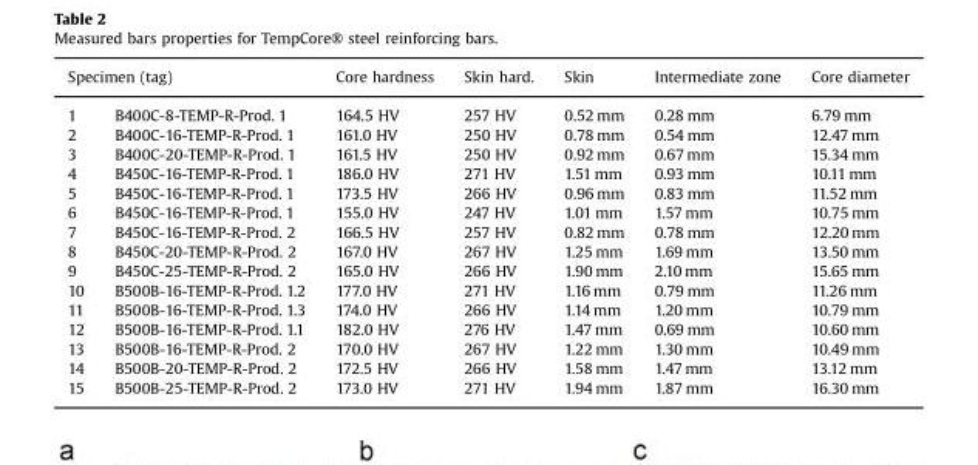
<table><thead><tr><td colspan="2">Specimen (tag)</td><td rowspan="2">Core hardness 164.5 HV</td><td rowspan="2">Skin hard. 257 HV</td><td rowspan="2">Skin 0.52 mm</td><td rowspan="2">Intermediate zone 0.28 mm</td><td rowspan="2">Core diameter 6.79 mm</td></tr><tr><td>1</td><td>B400C-8-TEMP-R-Prod. 1</td></tr></thead><tbody><tr><td>2</td><td>B400C-16-TEMP-R-Prod. 1</td><td>161.0 HV</td><td>250 HV</td><td>0.78 mm</td><td>0.54 mm</td><td>12.47 mm</td></tr><tr><td>3</td><td>B400C-20-TEMP-R-Prod. 1</td><td>161.5 HV</td><td>250 HV</td><td>0.92 mm</td><td>0.67 mm</td><td>15.34 mm</td></tr><tr><td>4</td><td>B450C-16-TEMP-R-Prod. 1</td><td>186.0 HV</td><td>271 HV</td><td>1.51 mm</td><td>0.93 mm</td><td>10.11 mm</td></tr><tr><td>5</td><td>B450C-16-TEMP-R-Prod. 1</td><td>173.5 HV</td><td>266 HV</td><td>0.96 mm</td><td>0.83 mm</td><td>11.52 mm</td></tr><tr><td>6</td><td>B450C-16-TEMP-R-Prod. 1</td><td>155.0 HV</td><td>247 HV</td><td>1.01 mm</td><td>1.57 mm</td><td>10.75 mm</td></tr><tr><td>7</td><td>B450C-16-TEMP-R-Prod. 2</td><td>166.5 HV</td><td>257 HV</td><td>0.82 mm</td><td>0.78 mm</td><td>12.20 mm</td></tr><tr><td>8</td><td>B450C-20-TEMP-R-Prod. 2</td><td>167.0 HV</td><td>267 HV</td><td>1.25 mm</td><td>1.69 mm</td><td>13.50 mm</td></tr><tr><td>9</td><td>B450C-25-TEMP-R-Prod. 2</td><td>165.0 HV</td><td>266 HV</td><td>1.90 mm</td><td>2.10 mm</td><td>15.65 mm</td></tr><tr><td>10</td><td>B500B-16-TEMP-R-Prod. 1.2</td><td>177.0 HV</td><td>271 HV</td><td>1.16 mm</td><td>0.79 mm</td><td>11.26 mm</td></tr><tr><td>11</td><td>B500B-16-TEMP-R-Prod. 1.3</td><td>174.0 HV</td><td>266 HV</td><td>1.14 mm</td><td>1.20 mm</td><td>10.79 mm</td></tr><tr><td>12</td><td>B500B-16-TEMP-R-Prod. 1.1</td><td>182.0 HV</td><td>276 HV</td><td>1.47 mm</td><td>0.69 mm</td><td>10.60 mm</td></tr><tr><td>13</td><td>B500B-16-TEMP-R-Prod. 2</td><td>170.0 HV</td><td>267 HV</td><td>1.22 mm</td><td>1.30 mm</td><td>10.49 mm</td></tr><tr><td>14</td><td>B500B-20-TEMP-R-Prod. 2</td><td>172.5 HV</td><td>266 HV</td><td>1.58 mm</td><td>1.47 mm</td><td>13.12 mm</td></tr><tr><td>15</td><td>B500B-25-TEMP-R-Prod. 2</td><td>173.0 HV</td><td>271 HV</td><td>1.94 mm</td><td>1.87 mm</td><td>16.30 mm</td></tr></tbody></table>